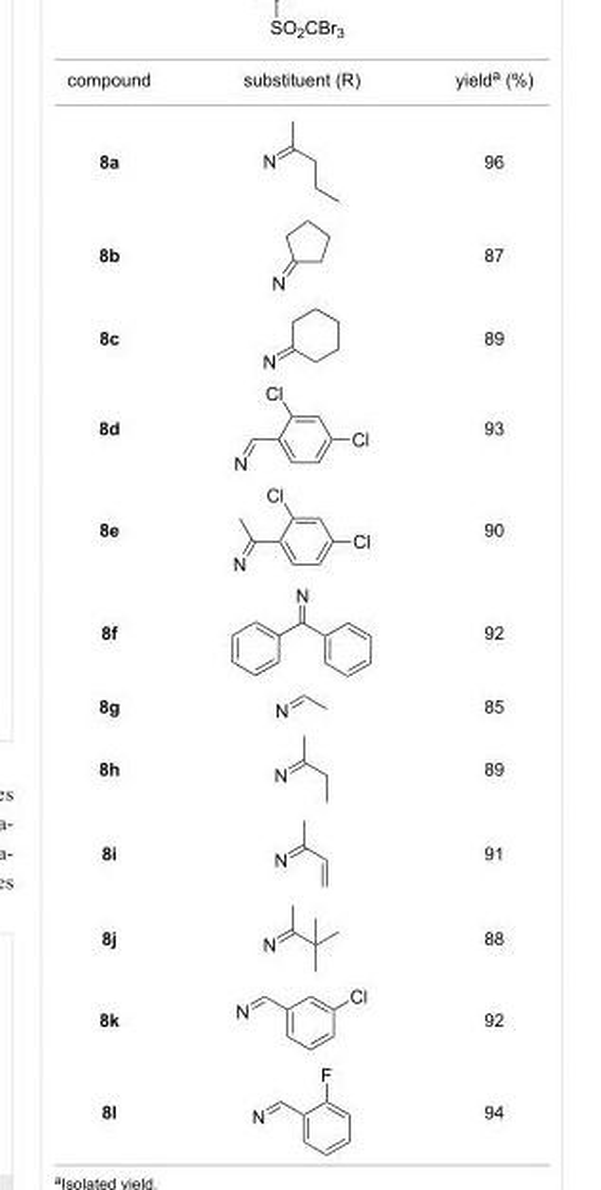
<table><tbody><tr><td>compound</td><td>substituent (R)</td><td>yield<sup>a</sup> (%)</td></tr><tr><td>8a</td><td></td><td>96</td></tr><tr><td>8b</td><td></td><td>87</td></tr><tr><td>8c</td><td></td><td>89</td></tr><tr><td>8d</td><td></td><td>93</td></tr><tr><td>8e</td><td></td><td>90</td></tr><tr><td>8f</td><td></td><td>92</td></tr><tr><td>8g</td><td></td><td>85</td></tr><tr><td>8h</td><td></td><td>89</td></tr><tr><td>8i</td><td></td><td>91</td></tr><tr><td>8j</td><td></td><td>88</td></tr><tr><td>8k</td><td></td><td>92</td></tr><tr><td>8l</td><td></td><td>94</td></tr></tbody></table>